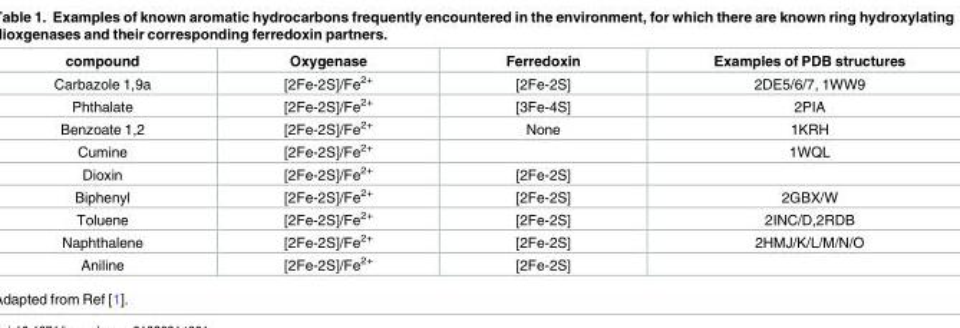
<table><thead><tr><td>compound</td><td>Oxygenase</td><td>Ferredoxin</td><td>Examples of PDB structures</td></tr></thead><tbody><tr><td>Carbazole 1,9a</td><td>[2Fe-2S]/Fe<sup>2+</sup></td><td>[2Fe-2S]</td><td>2DE5/6/7, 1WW9</td></tr><tr><td>Phthalate</td><td>[2Fe-2S]/Fe<sup>2+</sup></td><td>[3Fe-4S]</td><td>2PIA</td></tr><tr><td>Benzoate 1,2</td><td>[2Fe-2S]/Fe<sup>2+</sup></td><td>None</td><td>1KRH</td></tr><tr><td>Cumine</td><td>[2Fe-2S]/Fe<sup>2+</sup></td><td></td><td>1WQL</td></tr><tr><td>Dioxin</td><td>[2Fe-2S]/Fe<sup>2+</sup></td><td>[2Fe-2S]</td><td></td></tr><tr><td>Biphenyl</td><td>[2Fe-2S]/Fe<sup>2+</sup></td><td>[2Fe-2S]</td><td>2GBX/W</td></tr><tr><td>Toluene</td><td>[2Fe-2S]/Fe<sup>2+</sup></td><td>[2Fe-2S]</td><td>2INC/D,2RDB</td></tr><tr><td>Naphthalene</td><td>[2Fe-2S]/Fe<sup>2+</sup></td><td>[2Fe-2S]</td><td>2HMJ/K/L/M/N/O</td></tr><tr><td>Aniline</td><td>[2Fe-2S]/Fe<sup>2+</sup></td><td>[2Fe-2S]</td><td></td></tr></tbody></table>